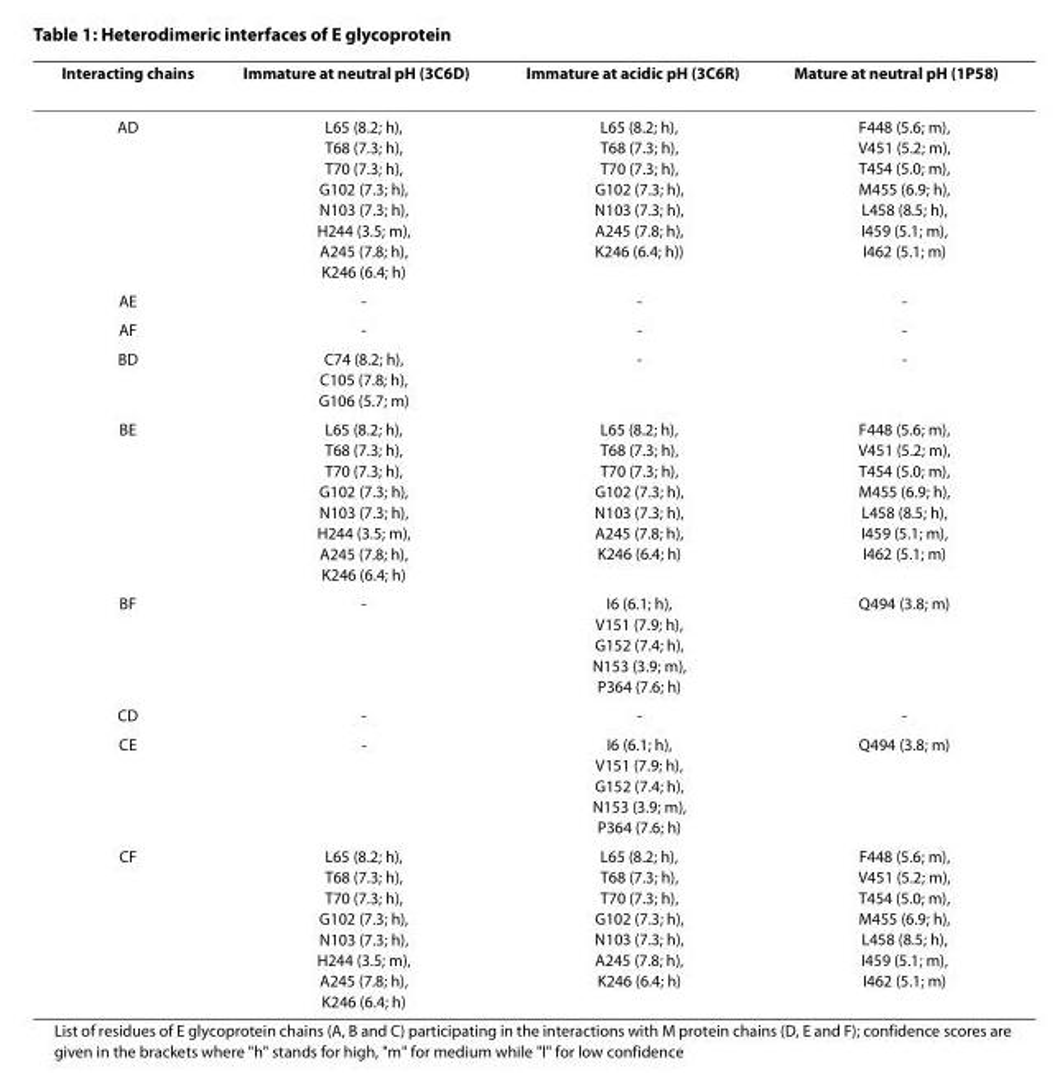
<table><thead><tr><td>Interacting chains</td><td>Immature at neutral pH (3C6D)</td><td>Immature at acidic pH (3C6R)</td><td>Mature at neutral pH (1P58)</td></tr></thead><tbody><tr><td>AD</td><td>L65 (8.2; h), T68 (7.3; h), T70 (7.3; h), G102 (7.3; h), N103 (7.3; h), H244 (3.5; m), A245 (7.8; h), K246 (6.4; h)</td><td>L65 (8.2; h), T68 (7.3; h), T70 (7.3; h), G102 (7.3; h), N103 (7.3; h), A245 (7.8; h), K246 (6.4; h))</td><td>F448 (5.6; m), V451 (5.2; m), T454 (5.0; m), M455 (6.9; h), L458 (8.5; h), I459 (5.1; m), I462 (5.1; m)</td></tr><tr><td>AE</td><td>-</td><td>-</td><td>-</td></tr><tr><td>AF</td><td>-</td><td>-</td><td>-</td></tr><tr><td>BD</td><td>C74 (8.2; h), C105 (7.8; h), G106 (5.7; m)</td><td>-</td><td>-</td></tr><tr><td>BE</td><td>L65 (8.2; h), T68 (7.3; h), T70 (7.3; h), G102 (7.3; h), N103 (7.3; h), H244 (3.5; m), A245 (7.8; h), K246 (6.4; h)</td><td>L65 (8.2; h), T68 (7.3; h), T70 (7.3; h), G102 (7.3; h), N103 (7.3; h), A245 (7.8; h), K246 (6.4; h)</td><td>F448 (5.6; m), V451 (5.2; m), T454 (5.0; m), M455 (6.9; h), L458 (8.5; h), I459 (5.1; m), I462 (5.1; m)</td></tr><tr><td>BF</td><td>-</td><td>I6 (6.1; h), V151 (7.9; h), G152 (7.4; h), N153 (3.9; m), P364 (7.6; h)</td><td>Q494 (3.8; m)</td></tr><tr><td>CD</td><td>-</td><td>-</td><td>-</td></tr><tr><td>CE</td><td>-</td><td>I6 (6.1; h), V151 (7.9; h), G152 (7.4; h), N153 (3.9; m), P364 (7.6; h)</td><td>Q494 (3.8; m)</td></tr><tr><td>CF</td><td>L65 (8.2; h), T68 (7.3; h), T70 (7.3; h), G102 (7.3; h), N103 (7.3; h), H244 (3.5; m), A245 (7.8; h), K246 (6.4; h)</td><td>L65 (8.2; h), T68 (7.3; h), T70 (7.3; h), G102 (7.3; h), N103 (7.3; h), A245 (7.8; h), K246 (6.4; h)</td><td>F448 (5.6; m), V451 (5.2; m), T454 (5.0; m), M455 (6.9; h), L458 (8.5; h), I459 (5.1; m), I462 (5.1; m)</td></tr></tbody></table>